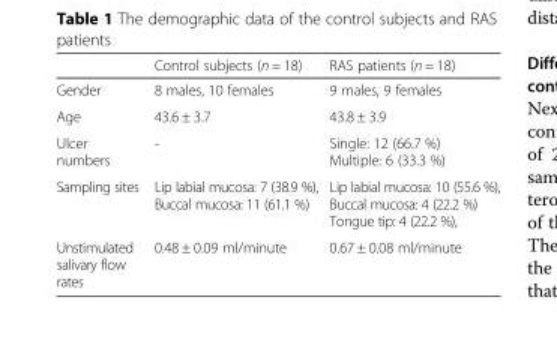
<table><thead><tr><td></td><td>Control subjects (n = 18)</td><td>RAS patients (n = 18)</td></tr></thead><tbody><tr><td>Gender</td><td>8 males, 10 females</td><td>9 males, 9 females</td></tr><tr><td>Age</td><td>43.6 ± 3.7</td><td>43.8 ± 3.9</td></tr><tr><td>Ulcer numbers</td><td>-</td><td>Single: 12 (66.7 %) Multiple: 6 (33.3 %)</td></tr><tr><td>Sampling sites</td><td>Lip labial mucosa: 7 (38.9 %), Buccal mucosa: 11 (61.1 %)</td><td>Lip labial mucosa: 10 (55.6 %), Buccal mucosa: 4 (22.2 %) Tongue tip: 4 (22.2 %),</td></tr><tr><td>Unstimulated salivary flow rates</td><td>0.48 ± 0.09 ml/minute</td><td>0.67 ± 0.08 ml/minute</td></tr></tbody></table>